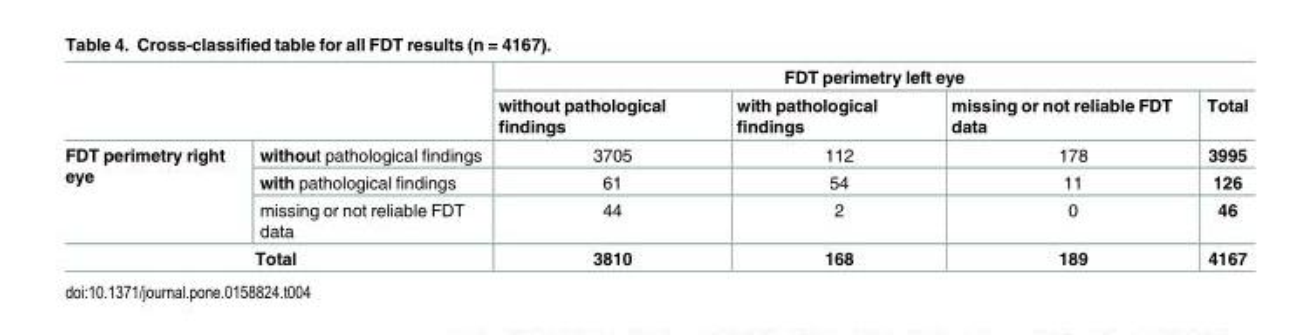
<table><thead><tr><td rowspan="2"></td><td rowspan="2"></td><td colspan="4">FDT perimetry left eye</td></tr><tr><td>without pathological findings</td><td>with pathological findings</td><td>missing or not reliable FDT data</td><td>Total</td></tr></thead><tbody><tr><td rowspan="3">FDT perimetry right eye</td><td>without pathological findings</td><td>3705</td><td>112</td><td>178</td><td>3995</td></tr><tr><td>with pathological findings</td><td>61</td><td>54</td><td>11</td><td>126</td></tr><tr><td>missing or not reliable FDT data</td><td>44</td><td>2</td><td>0</td><td>46</td></tr><tr><td colspan="2">Total</td><td>3810</td><td>168</td><td>189</td><td>4167</td></tr></tbody></table>